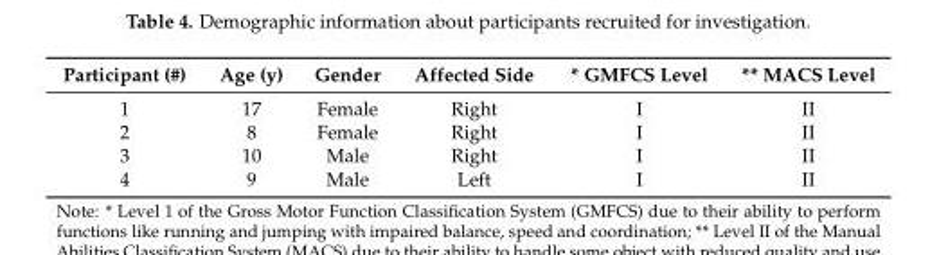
<table><thead><tr><td>Participant (#)</td><td>Age (y)</td><td>Gender</td><td>Affected Side</td><td>* GMFCS Level</td><td>** MACS Level</td></tr></thead><tbody><tr><td>1</td><td>17</td><td>Female</td><td>Right</td><td>I</td><td>II</td></tr><tr><td>2</td><td>8</td><td>Female</td><td>Right</td><td>I</td><td>II</td></tr><tr><td>3</td><td>10</td><td>Male</td><td>Right</td><td>I</td><td>II</td></tr><tr><td>4</td><td>9</td><td>Male</td><td>Left</td><td>I</td><td>II</td></tr></tbody></table>